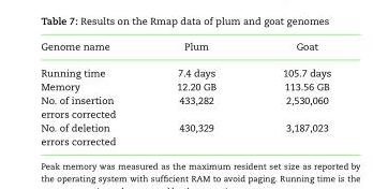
<table><thead><tr><td>Genome name</td><td>Plum</td><td>Goat</td></tr></thead><tbody><tr><td>Running time</td><td>7.4 days</td><td>105.7 days</td></tr><tr><td>Memory</td><td>12.20 GB</td><td>113.56 GB</td></tr><tr><td>No. of insertion errors corrected</td><td>433,282</td><td>2,530,060</td></tr><tr><td>No. of deletion errors corrected</td><td>430,329</td><td>3,187,023</td></tr></tbody></table>